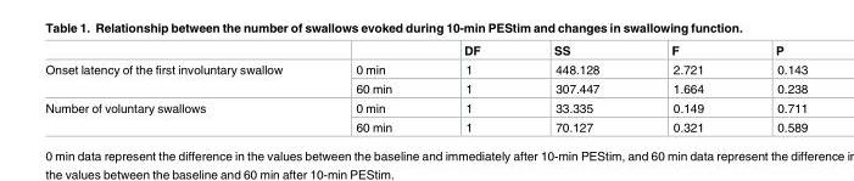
<table><thead><tr><td></td><td></td><td>DF</td><td>SS</td><td>F</td><td>P</td></tr></thead><tbody><tr><td rowspan="2">Onset latency of the first involuntary swallow</td><td>0 min</td><td>1</td><td>448.128</td><td>2.721</td><td>0.143</td></tr><tr><td>60 min</td><td>1</td><td>307.447</td><td>1.664</td><td>0.238</td></tr><tr><td rowspan="2">Number of voluntary swallows</td><td>0 min</td><td>1</td><td>33.335</td><td>0.149</td><td>0.711</td></tr><tr><td>60 min</td><td>1</td><td>70.127</td><td>0.321</td><td>0.589</td></tr></tbody></table>